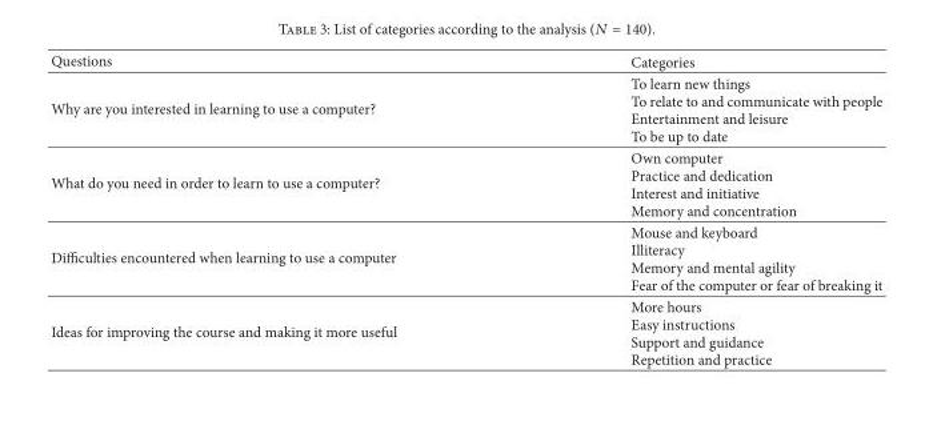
<table><thead><tr><td>Questions</td><td>Categories</td></tr></thead><tbody><tr><td>Why are you interested in learning to use a computer?</td><td>To learn new things To relate to and communicate with people Entertainment and leisure To be up to date</td></tr><tr><td>What do you need in order to learn to use a computer?</td><td>Own computer Practice and dedication Interest and initiative Memory and concentration</td></tr><tr><td>Difficulties encountered when learning to use a computer</td><td>Mouse and keyboard Illiteracy Memory and mental agility Fear of the computer or fear of breaking it</td></tr><tr><td>Ideas for improving the course and making it more useful</td><td>More hours Easy instructions Support and guidance Repetition and practice</td></tr></tbody></table>